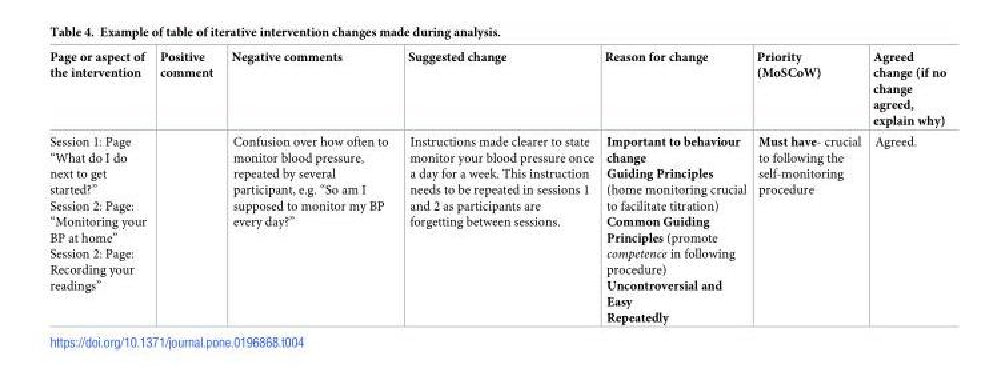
<table><thead><tr><td>Page or aspect of the intervention</td><td>Positive comment</td><td>Negative comments</td><td>Suggested change</td><td>Reason for change</td><td>Priority (MoSCoW)</td><td>Agreed change (if no change agreed, explain why)</td></tr></thead><tbody><tr><td>Session 1: Page “What do I do next to get started?” Session 2: Page: “Monitoring your BP at home” Session 2: Page: Recording your readings”</td><td></td><td>Confusion over how often to monitor blood pressure, repeated by several participant, e.g. “So am I supposed to monitor my BP every day?”</td><td>Instructions made clearer to state monitor your blood pressure once a day for a week. This instruction needs to be repeated in sessions 1 and 2 as participants are forgetting between sessions.</td><td>Important to behaviour change Guiding Principles (home monitoring crucial to facilitate titration) Common Guiding Principles (promote competence in following procedure) Uncontroversial and Easy Repeatedly</td><td>Must have- crucial to following the self-monitoring procedure</td><td>Agreed.</td></tr></tbody></table>